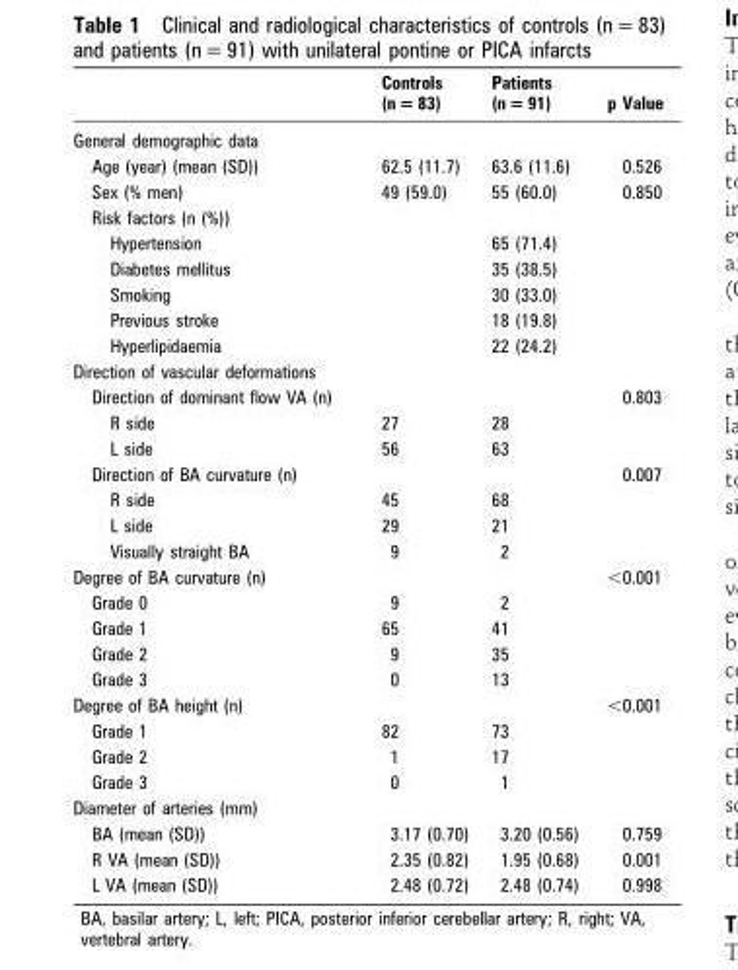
<table><thead><tr><td></td><td>Controls (n = 83)</td><td>Patients (n = 91)</td><td>p Value</td></tr></thead><tbody><tr><td colspan="4">General demographic data</td></tr><tr><td>Age (year) (mean (SD))</td><td>62.5 (11.7)</td><td>63.6 (11.6)</td><td>0.526</td></tr><tr><td>Sex (% men)</td><td>49 (59.0)</td><td>55 (60.0)</td><td>0.850</td></tr><tr><td colspan="4">Risk factors (n (%))</td></tr><tr><td>Hypertension</td><td></td><td>65 (71.4)</td><td></td></tr><tr><td>Diabetes mellitus</td><td></td><td>35 (38.5)</td><td></td></tr><tr><td>Smoking</td><td></td><td>30 (33.0)</td><td></td></tr><tr><td>Previous stroke</td><td></td><td>18 (19.8)</td><td></td></tr><tr><td>Hyperlipidaemia</td><td></td><td>22 (24.2)</td><td></td></tr><tr><td colspan="4">Direction of vascular deformations</td></tr><tr><td>Direction of dominant flow VA (n)</td><td></td><td></td><td>0.803</td></tr><tr><td>R side</td><td>27</td><td>28</td><td></td></tr><tr><td>L side</td><td>56</td><td>63</td><td></td></tr><tr><td>Direction of BA curvature (n)</td><td></td><td></td><td>0.007</td></tr><tr><td>R side</td><td>45</td><td>68</td><td></td></tr><tr><td>L side</td><td>29</td><td>21</td><td></td></tr><tr><td>Visually straight BA</td><td>9</td><td>2</td><td></td></tr><tr><td>Degree of BA curvature (n)</td><td></td><td></td><td>&lt;0.001</td></tr><tr><td>Grade 0</td><td>9</td><td>2</td><td></td></tr><tr><td>Grade 1</td><td>65</td><td>41</td><td></td></tr><tr><td>Grade 2</td><td>9</td><td>35</td><td></td></tr><tr><td>Grade 3</td><td>0</td><td>13</td><td></td></tr><tr><td>Degree of BA height (n)</td><td></td><td></td><td>&lt;0.001</td></tr><tr><td>Grade 1</td><td>82</td><td>73</td><td></td></tr><tr><td>Grade 2</td><td>1</td><td>17</td><td></td></tr><tr><td>Grade 3</td><td>0</td><td>1</td><td></td></tr><tr><td colspan="4">Diameter of arteries (mm)</td></tr><tr><td>BA (mean (SD))</td><td>3.17 (0.70)</td><td>3.20 (0.56)</td><td>0.759</td></tr><tr><td>R VA (mean (SD))</td><td>2.35 (0.82)</td><td>1.95 (0.68)</td><td>0.001</td></tr><tr><td>L VA (mean (SD))</td><td>2.48 (0.72)</td><td>2.48 (0.74)</td><td>0.998</td></tr></tbody></table>